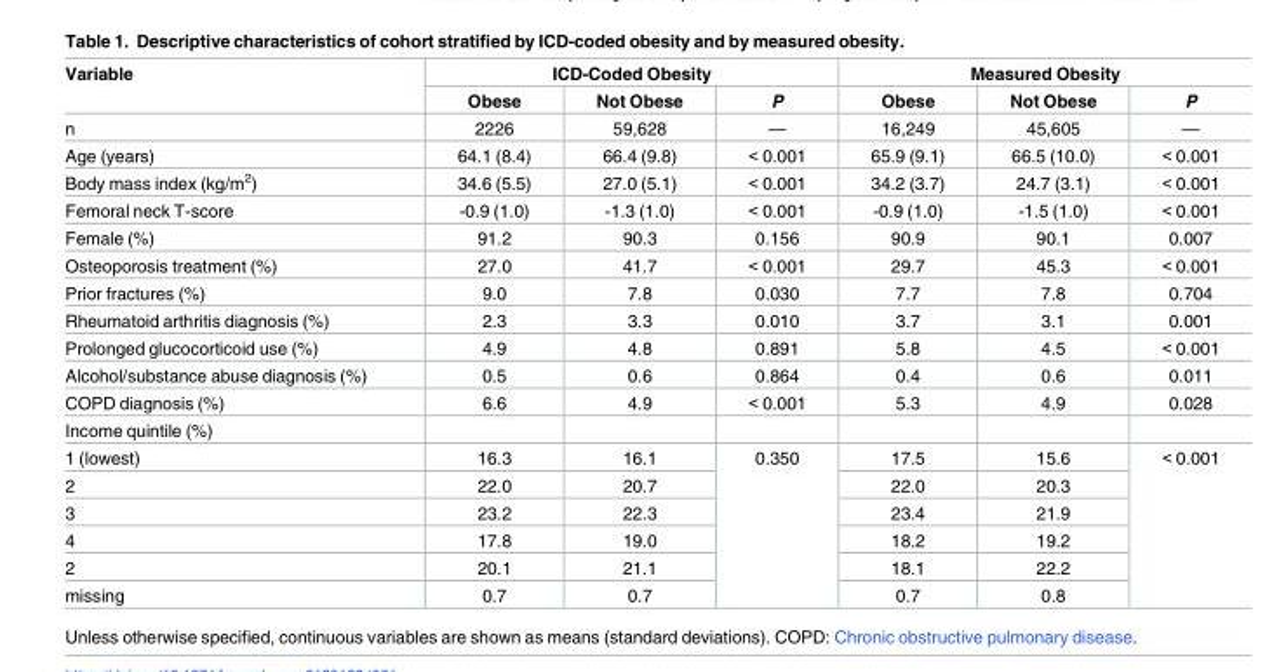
<table><thead><tr><td rowspan="2">Variable</td><td colspan="3">ICD-Coded Obesity</td><td colspan="3">Measured Obesity</td></tr><tr><td>Obese</td><td>Not Obese</td><td>P</td><td>Obese</td><td>Not Obese</td><td>P</td></tr></thead><tbody><tr><td>n</td><td>2226</td><td>59,628</td><td>—</td><td>16,249</td><td>45,605</td><td>—</td></tr><tr><td>Age (years)</td><td>64.1 (8.4)</td><td>66.4 (9.8)</td><td>&lt; 0.001</td><td>65.9 (9.1)</td><td>66.5 (10.0)</td><td>&lt; 0.001</td></tr><tr><td>Body mass index (kg/m<sup>2</sup>)</td><td>34.6 (5.5)</td><td>27.0 (5.1)</td><td>&lt; 0.001</td><td>34.2 (3.7)</td><td>24.7 (3.1)</td><td>&lt; 0.001</td></tr><tr><td>Femoral neck T-score</td><td>-0.9 (1.0)</td><td>-1.3 (1.0)</td><td>&lt; 0.001</td><td>-0.9 (1.0)</td><td>-1.5 (1.0)</td><td>&lt; 0.001</td></tr><tr><td>Female (%)</td><td>91.2</td><td>90.3</td><td>0.156</td><td>90.9</td><td>90.1</td><td>0.007</td></tr><tr><td>Osteoporosis treatment (%)</td><td>27.0</td><td>41.7</td><td>&lt; 0.001</td><td>29.7</td><td>45.3</td><td>&lt; 0.001</td></tr><tr><td>Prior fractures (%)</td><td>9.0</td><td>7.8</td><td>0.030</td><td>7.7</td><td>7.8</td><td>0.704</td></tr><tr><td>Rheumatoid arthritis diagnosis (%)</td><td>2.3</td><td>3.3</td><td>0.010</td><td>3.7</td><td>3.1</td><td>0.001</td></tr><tr><td>Prolonged glucocorticoid use (%)</td><td>4.9</td><td>4.8</td><td>0.891</td><td>5.8</td><td>4.5</td><td>&lt; 0.001</td></tr><tr><td>Alcohol/substance abuse diagnosis (%)</td><td>0.5</td><td>0.6</td><td>0.864</td><td>0.4</td><td>0.6</td><td>0.011</td></tr><tr><td>COPD diagnosis (%)</td><td>6.6</td><td>4.9</td><td>&lt; 0.001</td><td>5.3</td><td>4.9</td><td>0.028</td></tr><tr><td colspan="7">Income quintile (%)</td></tr><tr><td>1 (lowest)</td><td>16.3</td><td>16.1</td><td rowspan="6">0.350</td><td>17.5</td><td>15.6</td><td rowspan="6">&lt; 0.001</td></tr><tr><td>2</td><td>22.0</td><td>20.7</td><td>22.0</td><td>20.3</td></tr><tr><td>3</td><td>23.2</td><td>22.3</td><td>23.4</td><td>21.9</td></tr><tr><td>4</td><td>17.8</td><td>19.0</td><td>18.2</td><td>19.2</td></tr><tr><td>2</td><td>20.1</td><td>21.1</td><td>18.1</td><td>22.2</td></tr><tr><td>missing</td><td>0.7</td><td>0.7</td><td>0.7</td><td>0.8</td></tr></tbody></table>